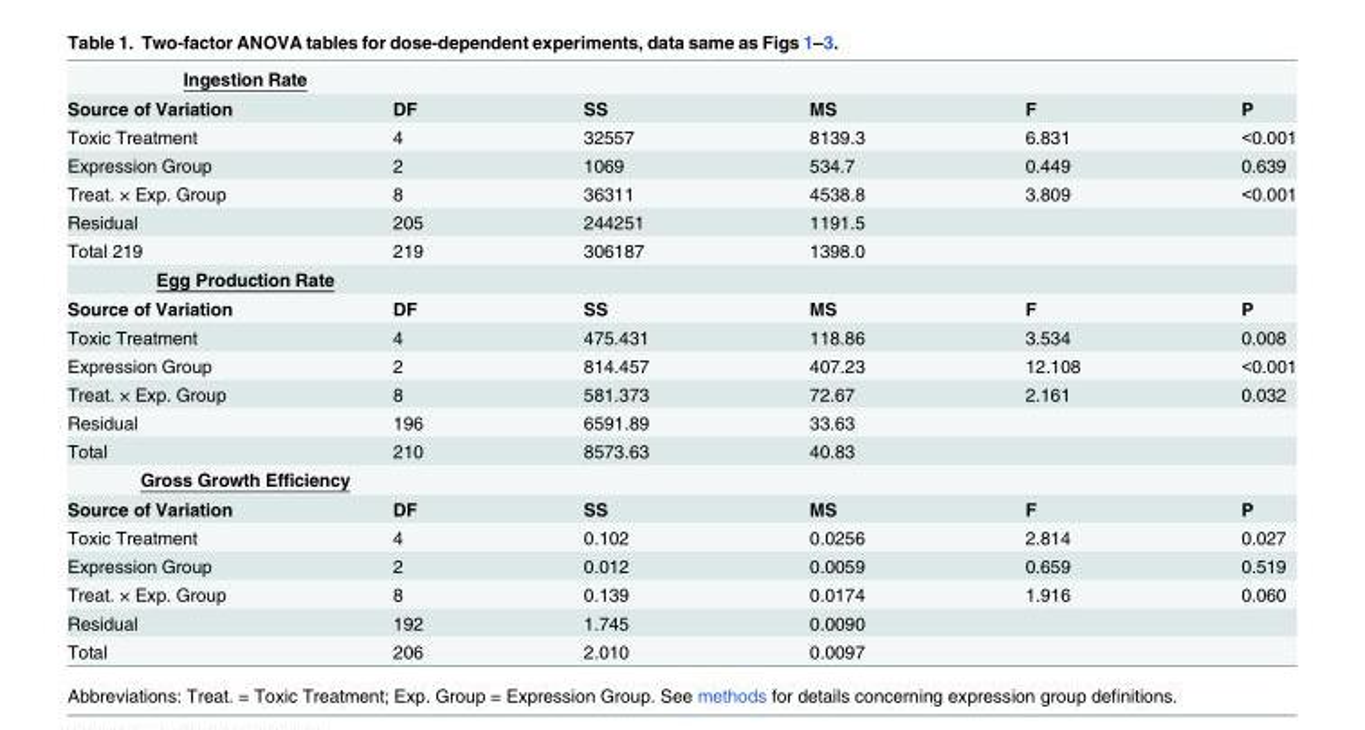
<table><tbody><tr><td colspan="6">Ingestion Rate</td></tr><tr><td>Source of Variation</td><td>DF</td><td>SS</td><td>MS</td><td>F</td><td>P</td></tr><tr><td>Toxic Treatment</td><td>4</td><td>32557</td><td>8139.3</td><td>6.831</td><td>&lt;0.001</td></tr><tr><td>Expression Group</td><td>2</td><td>1069</td><td>534.7</td><td>0.449</td><td>0.639</td></tr><tr><td>Treat. × Exp. Group</td><td>8</td><td>36311</td><td>4538.8</td><td>3.809</td><td>&lt;0.001</td></tr><tr><td>Residual</td><td>205</td><td>244251</td><td>1191.5</td><td></td><td></td></tr><tr><td>Total 219</td><td>219</td><td>306187</td><td>1398.0</td><td></td><td></td></tr><tr><td colspan="6">Egg Production Rate</td></tr><tr><td>Source of Variation</td><td>DF</td><td>SS</td><td>MS</td><td>F</td><td>P</td></tr><tr><td>Toxic Treatment</td><td>4</td><td>475.431</td><td>118.86</td><td>3.534</td><td>0.008</td></tr><tr><td>Expression Group</td><td>2</td><td>814.457</td><td>407.23</td><td>12.108</td><td>&lt;0.001</td></tr><tr><td>Treat. × Exp. Group</td><td>8</td><td>581.373</td><td>72.67</td><td>2.161</td><td>0.032</td></tr><tr><td>Residual</td><td>196</td><td>6591.89</td><td>33.63</td><td></td><td></td></tr><tr><td>Total</td><td>210</td><td>8573.63</td><td>40.83</td><td></td><td></td></tr><tr><td colspan="6">Gross Growth Efficiency</td></tr><tr><td>Source of Variation</td><td>DF</td><td>SS</td><td>MS</td><td>F</td><td>P</td></tr><tr><td>Toxic Treatment</td><td>4</td><td>0.102</td><td>0.0256</td><td>2.814</td><td>0.027</td></tr><tr><td>Expression Group</td><td>2</td><td>0.012</td><td>0.0059</td><td>0.659</td><td>0.519</td></tr><tr><td>Treat. × Exp. Group</td><td>8</td><td>0.139</td><td>0.0174</td><td>1.916</td><td>0.060</td></tr><tr><td>Residual</td><td>192</td><td>1.745</td><td>0.0090</td><td></td><td></td></tr><tr><td>Total</td><td>206</td><td>2.010</td><td>0.0097</td><td></td><td></td></tr></tbody></table>